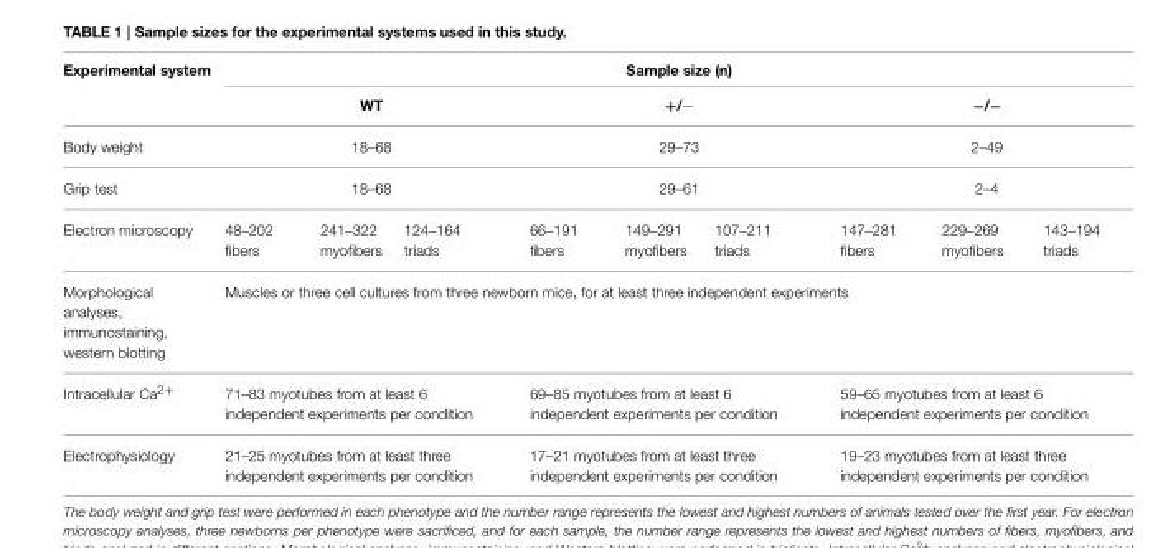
<table><thead><tr><td rowspan="5">Experimental system Body weight Grip test Electron microscopy</td><td colspan="9">Sample size (n)</td></tr><tr><td rowspan="3" colspan="3">WT 18–68 18–68</td><td rowspan="3" colspan="3">+/− 29–73 29–61</td><td rowspan="3" colspan="3">−/− 2–49 2–4</td></tr><tr></tr><tr></tr><tr><td>48–202 fibers</td><td>241–322 myofibers</td><td>124–164 triads</td><td>66–191 fibers</td><td>149–291 myofibers</td><td>107–211 triads</td><td>147–281 fibers</td><td>229–269 myofibers</td><td>143–194 triads</td></tr></thead><tbody><tr><td>Morphological analyses, immunostaining, western blotting</td><td colspan="9">Muscles or three cell cultures from three newborn mice, for at least three independent experiments</td></tr><tr><td>Intracellular Ca<sup>2+</sup></td><td colspan="3">71–83 myotubes from at least 6 independent experiments per condition</td><td colspan="3">69–85 myotubes from at least 6 independent experiments per condition</td><td colspan="3">59–65 myotubes from at least 6 independent experiments per condition</td></tr><tr><td>Electrophysiology</td><td colspan="3">21–25 myotubes from at least three independent experiments per condition</td><td colspan="3">17–21 myotubes from at least three independent experiments per condition</td><td colspan="3">19–23 myotubes from at least three independent experiments per condition</td></tr></tbody></table>